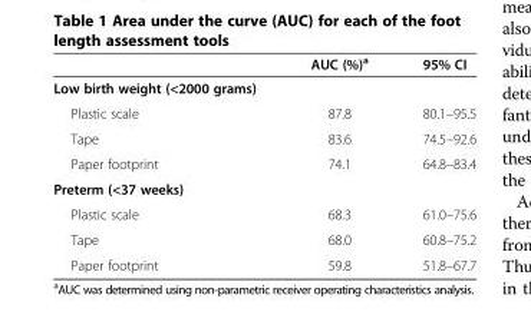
<table><thead><tr><td></td><td>AUC (%)<sup>a</sup></td><td>95% CI</td></tr></thead><tbody><tr><td colspan="3">Low birth weight (&lt;2000 grams)</td></tr><tr><td>Plastic scale</td><td>87.8</td><td>80.1–95.5</td></tr><tr><td>Tape</td><td>83.6</td><td>74.5–92.6</td></tr><tr><td>Paper footprint</td><td>74.1</td><td>64.8–83.4</td></tr><tr><td colspan="3">Preterm (&lt;37 weeks)</td></tr><tr><td>Plastic scale</td><td>68.3</td><td>61.0–75.6</td></tr><tr><td>Tape</td><td>68.0</td><td>60.8–75.2</td></tr><tr><td>Paper footprint</td><td>59.8</td><td>51.8–67.7</td></tr></tbody></table>